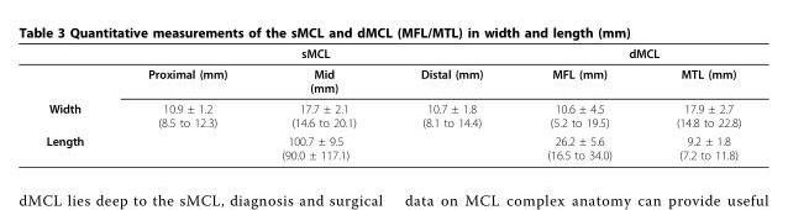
<table><thead><tr><td rowspan="2"></td><td colspan="3">sMCL</td><td colspan="2">dMCL</td></tr><tr><td>Proximal (mm)</td><td>Mid (mm)</td><td>Distal (mm)</td><td>MFL (mm)</td><td>MTL (mm)</td></tr></thead><tbody><tr><td>Width</td><td>10.9 ± 1.2 (8.5 to 12.3)</td><td>17.7 ± 2.1 (14.6 to 20.1)</td><td>10.7 ± 1.8 (8.1 to 14.4)</td><td>10.6 ± 4.5 (5.2 to 19.5)</td><td>17.9 ± 2.7 (14.8 to 22.8)</td></tr><tr><td>Length</td><td colspan="3">100.7 ± 9.5 (90.0 ± 117.1)</td><td>26.2 ± 5.6 (16.5 to 34.0)</td><td>9.2 ± 1.8 (7.2 to 11.8)</td></tr></tbody></table>